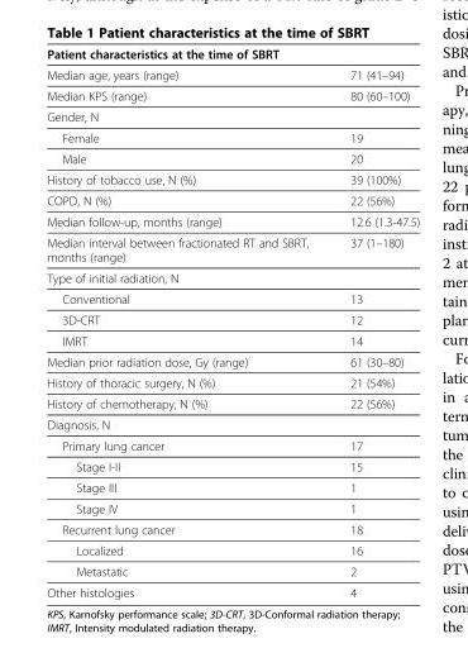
<table><thead><tr><td>Patient characteristics at the time of SBRT</td><td></td></tr></thead><tbody><tr><td>Median age, years (range)</td><td>71 (41–94)</td></tr><tr><td>Median KPS (range)</td><td>80 (60–100)</td></tr><tr><td colspan="2">Gender, N</td></tr><tr><td>Female</td><td>19</td></tr><tr><td>Male</td><td>20</td></tr><tr><td>History of tobacco use, N (%)</td><td>39 (100%)</td></tr><tr><td>COPD, N (%)</td><td>22 (56%)</td></tr><tr><td>Median follow-up, months (range)</td><td>12.6 (1.3-47.5)</td></tr><tr><td>Median interval between fractionated RT and SBRT, months (range)</td><td>37 (1–180)</td></tr><tr><td colspan="2">Type of initial radiation, N</td></tr><tr><td>Conventional</td><td>13</td></tr><tr><td>3D-CRT</td><td>12</td></tr><tr><td>IMRT</td><td>14</td></tr><tr><td>Median prior radiation dose, Gy (range)</td><td>61 (30–80)</td></tr><tr><td>History of thoracic surgery, N (%)</td><td>21 (54%)</td></tr><tr><td>History of chemotherapy, N (%)</td><td>22 (56%)</td></tr><tr><td colspan="2">Diagnosis, N</td></tr><tr><td>Primary lung cancer</td><td>17</td></tr><tr><td>Stage I-II</td><td>15</td></tr><tr><td>Stage III</td><td>1</td></tr><tr><td>Stage IV</td><td>1</td></tr><tr><td>Recurrent lung cancer</td><td>18</td></tr><tr><td>Localized</td><td>16</td></tr><tr><td>Metastatic</td><td>2</td></tr><tr><td>Other histologies</td><td>4</td></tr></tbody></table>